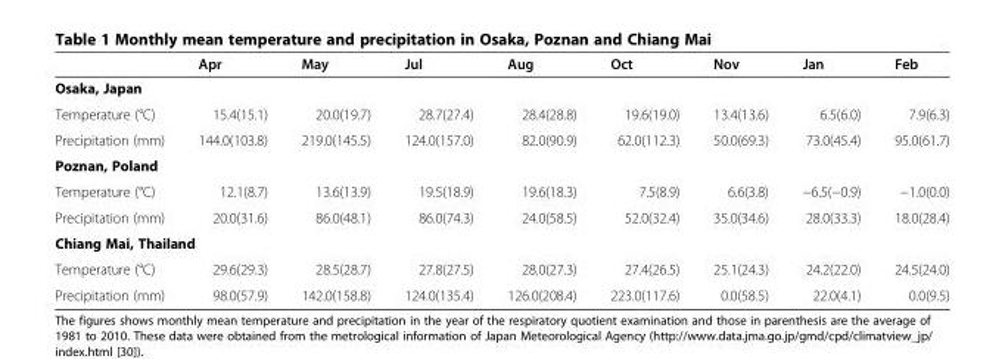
<table><thead><tr><td></td><td>Apr</td><td>May</td><td>Jul</td><td>Aug</td><td>Oct</td><td>Nov</td><td>Jan</td><td>Feb</td></tr></thead><tbody><tr><td colspan="9">Osaka, Japan</td></tr><tr><td>Temperature (°C)</td><td>15.4(15.1)</td><td>20.0(19.7)</td><td>28.7(27.4)</td><td>28.4(28.8)</td><td>19.6(19.0)</td><td>13.4(13.6)</td><td>6.5(6.0)</td><td>7.9(6.3)</td></tr><tr><td>Precipitation (mm)</td><td>144.0(103.8)</td><td>219.0(145.5)</td><td>124.0(157.0)</td><td>82.0(90.9)</td><td>62.0(112.3)</td><td>50.0(69.3)</td><td>73.0(45.4)</td><td>95.0(61.7)</td></tr><tr><td colspan="9">Poznan, Poland</td></tr><tr><td>Temperature (°C)</td><td>12.1(8.7)</td><td>13.6(13.9)</td><td>19.5(18.9)</td><td>19.6(18.3)</td><td>7.5(8.9)</td><td>6.6(3.8)</td><td>−6.5(−0.9)</td><td>−1.0(0.0)</td></tr><tr><td>Precipitation (mm)</td><td>20.0(31.6)</td><td>86.0(48.1)</td><td>86.0(74.3)</td><td>24.0(58.5)</td><td>52.0(32.4)</td><td>35.0(34.6)</td><td>28.0(33.3)</td><td>18.0(28.4)</td></tr><tr><td colspan="9">Chiang Mai, Thailand</td></tr><tr><td>Temperature (°C)</td><td>29.6(29.3)</td><td>28.5(28.7)</td><td>27.8(27.5)</td><td>28.0(27.3)</td><td>27.4(26.5)</td><td>25.1(24.3)</td><td>24.2(22.0)</td><td>24.5(24.0)</td></tr><tr><td>Precipitation (mm)</td><td>98.0(57.9)</td><td>142.0(158.8)</td><td>124.0(135.4)</td><td>126.0(208.4)</td><td>223.0(117.6)</td><td>0.0(58.5)</td><td>22.0(4.1)</td><td>0.0(9.5)</td></tr></tbody></table>